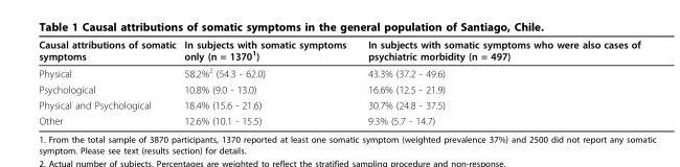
<table><thead><tr><td>Causal attributions of somatic symptoms</td><td>In subjects with somatic symptoms only (n = 1370<sup>1</sup>)</td><td>In subjects with somatic symptoms who were also cases of psychiatric morbidity (n = 497)</td></tr></thead><tbody><tr><td>Physical</td><td>58.2%<sup>2</sup> (54.3 - 62.0)</td><td>43.3% (37.2 - 49.6)</td></tr><tr><td>Psychological</td><td>10.8% (9.0 - 13.0)</td><td>16.6% (12.5 - 21.9)</td></tr><tr><td>Physical and Psychological</td><td>18.4% (15.6 - 21.6)</td><td>30.7% (24.8 - 37.5)</td></tr><tr><td>Other</td><td>12.6% (10.1 - 15.5)</td><td>9.3% (5.7 - 14.7)</td></tr></tbody></table>